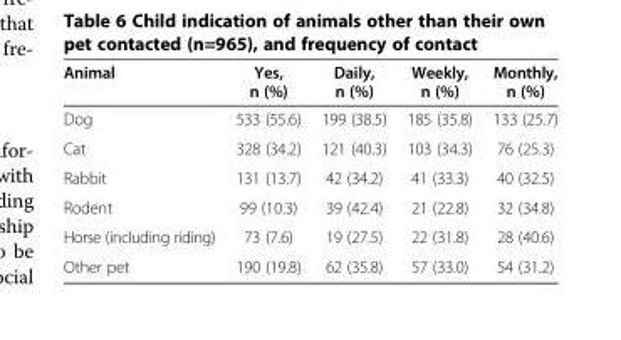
<table><thead><tr><td>Animal</td><td>Yes, n (%)</td><td>Daily, n (%)</td><td>Weekly, n (%)</td><td>Monthly, n (%)</td></tr></thead><tbody><tr><td>Dog</td><td>533 (55.6)</td><td>199 (38.5)</td><td>185 (35.8)</td><td>133 (25.7)</td></tr><tr><td>Cat</td><td>328 (34.2)</td><td>121 (40.3)</td><td>103 (34.3)</td><td>76 (25.3)</td></tr><tr><td>Rabbit</td><td>131 (13.7)</td><td>42 (34.2)</td><td>41 (33.3)</td><td>40 (32.5)</td></tr><tr><td>Rodent</td><td>99 (10.3)</td><td>39 (42.4)</td><td>21 (22.8)</td><td>32 (34.8)</td></tr><tr><td>Horse (including riding)</td><td>73 (7.6)</td><td>19 (27.5)</td><td>22 (31.8)</td><td>28 (40.6)</td></tr><tr><td>Other pet</td><td>190 (19.8)</td><td>62 (35.8)</td><td>57 (33.0)</td><td>54 (31.2)</td></tr></tbody></table>